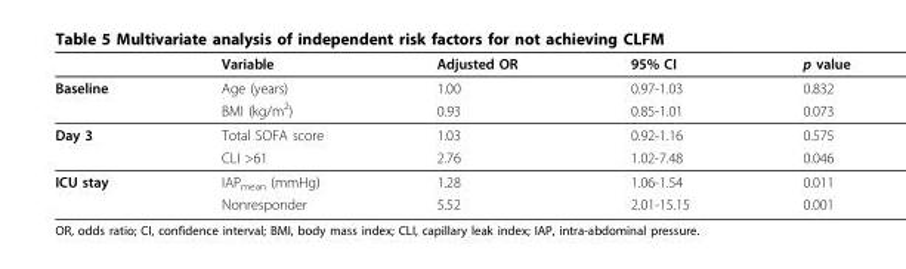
<table><thead><tr><td></td><td>Variable</td><td>Adjusted OR</td><td>95% CI</td><td>p value</td></tr></thead><tbody><tr><td rowspan="2">Baseline</td><td>Age (years)</td><td>1.00</td><td>0.97-1.03</td><td>0.832</td></tr><tr><td>BMI (kg/m<sup>2</sup>)</td><td>0.93</td><td>0.85-1.01</td><td>0.073</td></tr><tr><td rowspan="2">Day 3</td><td>Total SOFA score</td><td>1.03</td><td>0.92-1.16</td><td>0.575</td></tr><tr><td>CLI &gt;61</td><td>2.76</td><td>1.02-7.48</td><td>0.046</td></tr><tr><td rowspan="2">ICU stay</td><td>IAP<sub>mean</sub> (mmHg)</td><td>1.28</td><td>1.06-1.54</td><td>0.011</td></tr><tr><td>Nonresponder</td><td>5.52</td><td>2.01-15.15</td><td>0.001</td></tr></tbody></table>